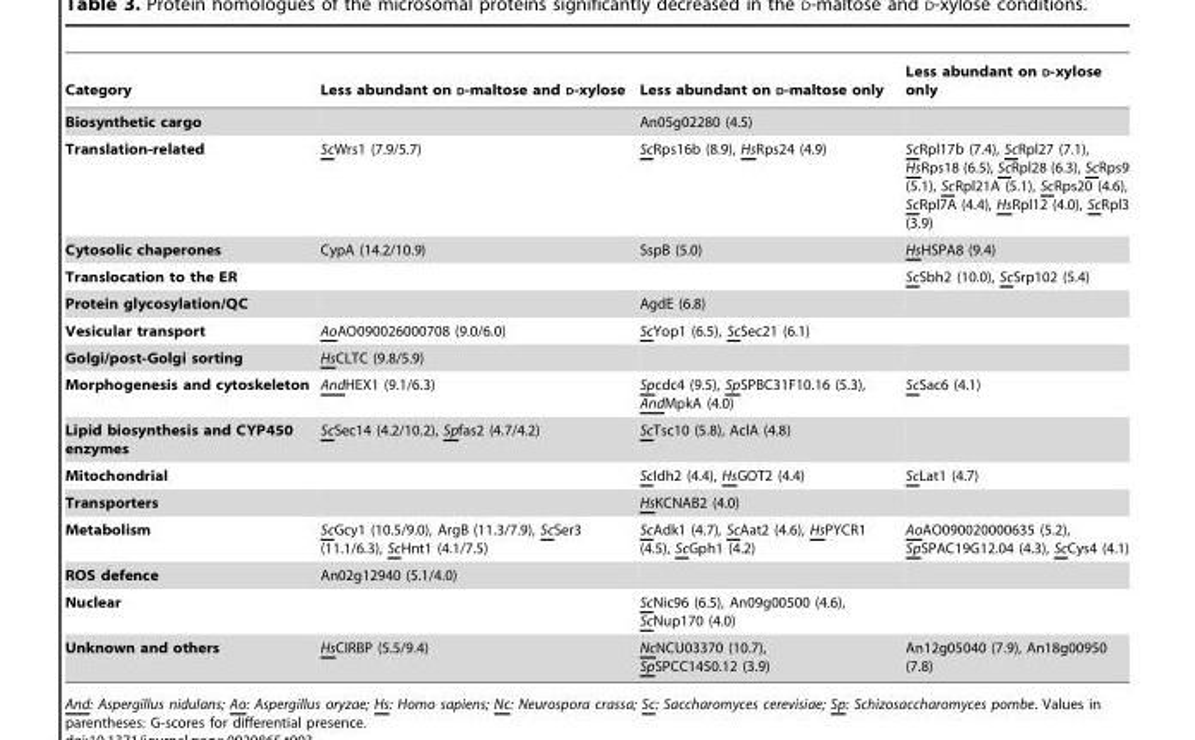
<table><thead><tr><td>Category</td><td>Less abundant on D-maltose and D-xylose</td><td>Less abundant on D-maltose only</td><td>Less abundant on D-xylose only</td></tr></thead><tbody><tr><td>Biosynthetic cargo</td><td></td><td>An05g02280 (4.5)</td><td></td></tr><tr><td>Translation-related</td><td>ScWrs1 (7.9/5.7)</td><td>ScRps16b (8.9), HsRps24 (4.9)</td><td>ScRpl17b (7.4), ScRpl27 (7.1), HsRps18 (6.5), ScRpl28 (6.3), ScRps9 (5.1), ScRpl21A (5.1), ScRps20 (4.6), ScRpl7A (4.4), HsRpl12 (4.0), ScRpl3 (3.9)</td></tr><tr><td>Cytosolic chaperones</td><td>CypA (14.2/10.9)</td><td>SspB (5.0)</td><td>HsHSPA8 (9.4)</td></tr><tr><td>Translocation to the ER</td><td></td><td></td><td>ScSbh2 (10.0), ScSrp102 (5.4)</td></tr><tr><td>Protein glycosylation/QC</td><td></td><td>AgdE (6.8)</td><td></td></tr><tr><td>Vesicular transport</td><td>AoAO090026000708 (9.0/6.0)</td><td>ScYop1 (6.5), ScSec21 (6.1)</td><td></td></tr><tr><td>Golgi/post-Golgi sorting</td><td>HsCLTC (9.8/5.9)</td><td></td><td></td></tr><tr><td>Morphogenesis and cytoskeleton</td><td>AndHEX1 (9.1/6.3)</td><td>Spcdc4 (9.5), SpSPBC31F10.16 (5.3), AndMpkA (4.0)</td><td>ScSac6 (4.1)</td></tr><tr><td>Lipid biosynthesis and CYP450 enzymes</td><td>ScSec14 (4.2/10.2), Spfas2 (4.7/4.2)</td><td>ScTsc10 (5.8), AclA (4.8)</td><td></td></tr><tr><td>Mitochondrial</td><td></td><td>ScIdh2 (4.4), HsGOT2 (4.4)</td><td>ScLat1 (4.7)</td></tr><tr><td>Transporters</td><td></td><td>HsKCNAB2 (4.0)</td><td></td></tr><tr><td>Metabolism</td><td>ScGcy1 (10.5/9.0), ArgB (11.3/7.9), ScSer3 (11.1/6.3), ScHnt1 (4.1/7.5)</td><td>ScAdk1 (4.7), ScAat2 (4.6), HsPYCR1 (4.5), ScGph1 (4.2)</td><td>AoAO090020000635 (5.2), SpSPAC19G12.04 (4.3), ScCys4 (4.1)</td></tr><tr><td>ROS defence</td><td>An02g12940 (5.1/4.0)</td><td></td><td></td></tr><tr><td>Nuclear</td><td></td><td>ScNic96 (6.5), An09g00500 (4.6), ScNup170 (4.0)</td><td></td></tr><tr><td>Unknown and others</td><td>HsCIRBP (5.5/9.4)</td><td>NcNCU03370 (10.7), SpSPCC1450.12 (3.9)</td><td>An12g05040 (7.9), An18g00950 (7.8)</td></tr></tbody></table>